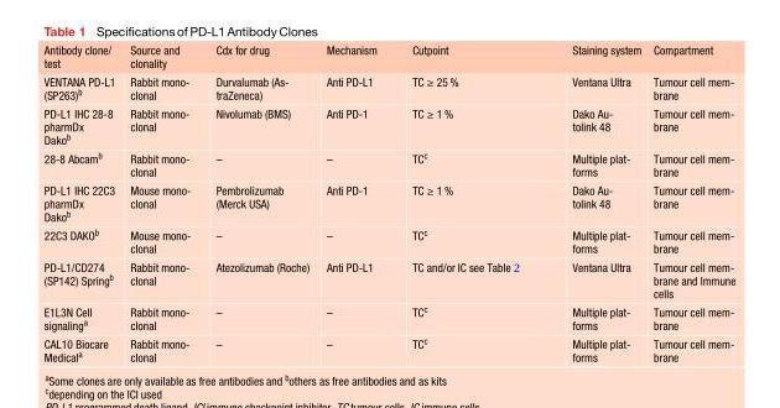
<table><thead><tr><td>Antibody clone/ test</td><td>Source and clonality</td><td>Cdx for drug</td><td>Mechanism</td><td>Cutpoint</td><td>Staining system</td><td>Compartment</td></tr></thead><tbody><tr><td>VENTANA PD-L1 (SP263)<sup>b</sup></td><td>Rabbit mono- clonal</td><td>Durvalumab (As- traZeneca)</td><td>Anti PD-L1</td><td>TC ≥ 25 %</td><td>Ventana Ultra</td><td>Tumour cell mem- brane</td></tr><tr><td>PD-L1 IHC 28-8 pharmDx Dako<sup>b</sup></td><td>Rabbit mono- clonal</td><td>Nivolumab (BMS)</td><td>Anti PD-1</td><td>TC ≥ 1 %</td><td>Dako Au- tolink 48</td><td>Tumour cell mem- brane</td></tr><tr><td>28-8 Abcam<sup>b</sup></td><td>Rabbit mono- clonal</td><td>–</td><td>–</td><td>TC<sup>c</sup></td><td>Multiple plat- forms</td><td>Tumour cell mem- brane</td></tr><tr><td>PD-L1 IHC 22C3 pharmDx Dako<sup>b</sup></td><td>Mouse mono- clonal</td><td>Pembrolizumab (Merck USA)</td><td>Anti PD-1</td><td>TC ≥ 1 %</td><td>Dako Au- tolink 48</td><td>Tumour cell mem- brane</td></tr><tr><td>22C3 DAKO<sup>b</sup></td><td>Mouse mono- clonal</td><td>–</td><td>–</td><td>TC<sup>c</sup></td><td>Multiple plat- forms</td><td>Tumour cell mem- brane</td></tr><tr><td>PD-L1/CD274 (SP142) Spring<sup>b</sup></td><td>Rabbit mono- clonal</td><td>Atezolizumab (Roche)</td><td>Anti PD-L1</td><td>TC and/or IC see Table 2</td><td>Ventana Ultra</td><td>Tumour cell mem- brane and Immune cells</td></tr><tr><td>E1L3N Cell signaling<sup>a</sup></td><td>Rabbit mono- clonal</td><td>–</td><td>–</td><td>TC<sup>c</sup></td><td>Multiple plat- forms</td><td>Tumour cell mem- brane</td></tr><tr><td>CAL10 Biocare Medical<sup>a</sup></td><td>Rabbit mono- clonal</td><td>–</td><td>–</td><td>TC<sup>c</sup></td><td>Multiple plat- forms</td><td>Tumour cell mem- brane</td></tr></tbody></table>